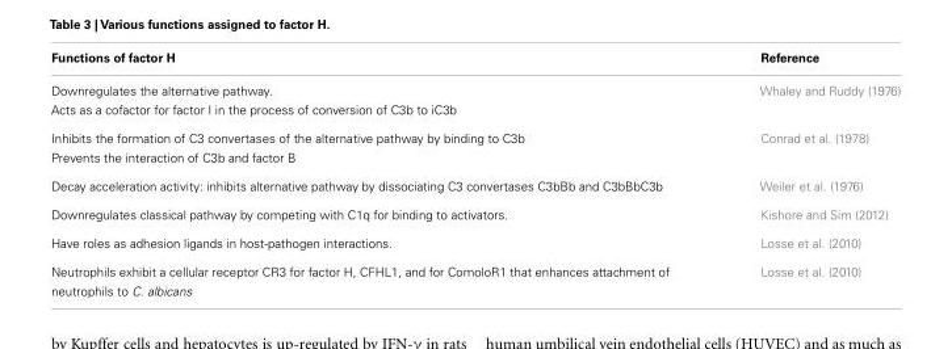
<table><thead><tr><td>Functions of factor H</td><td>Reference</td></tr></thead><tbody><tr><td>Downregulates the alternative pathway.</td><td>Whaley and Ruddy (1976)</td></tr><tr><td colspan="2">Acts as a cofactor for factor I in the process of conversion of C3b to iC3b</td></tr><tr><td>Inhibits the formation of C3 convertases of the alternative pathway by binding to C3b</td><td>Conrad et al. (1978)</td></tr><tr><td colspan="2">Prevents the interaction of C3b and factor B</td></tr><tr><td>Decay acceleration activity: inhibits alternative pathway by dissociating C3 convertases C3bBb and C3bBbC3b</td><td>Weiler et al. (1976)</td></tr><tr><td>Downregulates classical pathway by competing with C1q for binding to activators.</td><td>Kishore and Sim (2012)</td></tr><tr><td>Have roles as adhesion ligands in host-pathogen interactions.</td><td>Losse et al. (2010)</td></tr><tr><td>Neutrophils exhibit a cellular receptor CR3 for factor H, CFHL1, and for ComoloR1 that enhances attachment of neutrophils to C. albicans</td><td>Losse et al. (2010)</td></tr></tbody></table>